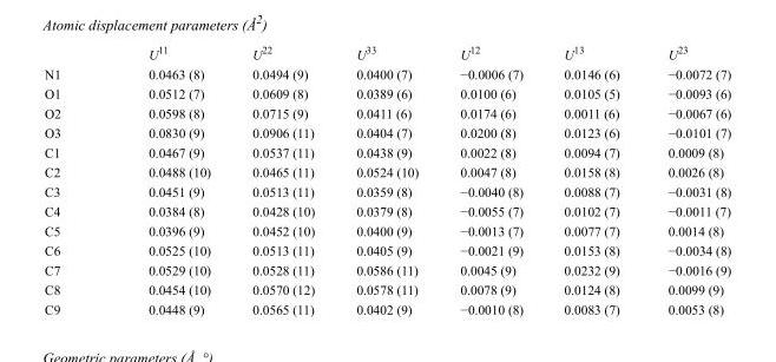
<table><thead><tr><td></td><td>U<sup>11</sup></td><td>U<sup>22</sup></td><td>U<sup>33</sup></td><td>U<sup>12</sup></td><td>U<sup>13</sup></td><td>U<sup>23</sup></td></tr></thead><tbody><tr><td>N1</td><td>0.0463 (8)</td><td>0.0494 (9)</td><td>0.0400 (7)</td><td>−0.0006 (7)</td><td>0.0146 (6)</td><td>−0.0072 (7)</td></tr><tr><td>O1</td><td>0.0512 (7)</td><td>0.0609 (8)</td><td>0.0389 (6)</td><td>0.0100 (6)</td><td>0.0105 (5)</td><td>−0.0093 (6)</td></tr><tr><td>O2</td><td>0.0598 (8)</td><td>0.0715 (9)</td><td>0.0411 (6)</td><td>0.0174 (6)</td><td>0.0011 (6)</td><td>−0.0067 (6)</td></tr><tr><td>O3</td><td>0.0830 (9)</td><td>0.0906 (11)</td><td>0.0404 (7)</td><td>0.0200 (8)</td><td>0.0123 (6)</td><td>−0.0101 (7)</td></tr><tr><td>C1</td><td>0.0467 (9)</td><td>0.0537 (11)</td><td>0.0438 (9)</td><td>0.0022 (8)</td><td>0.0094 (7)</td><td>0.0009 (8)</td></tr><tr><td>C2</td><td>0.0488 (10)</td><td>0.0465 (11)</td><td>0.0524 (10)</td><td>0.0047 (8)</td><td>0.0158 (8)</td><td>0.0026 (8)</td></tr><tr><td>C3</td><td>0.0451 (9)</td><td>0.0513 (11)</td><td>0.0359 (8)</td><td>−0.0040 (8)</td><td>0.0088 (7)</td><td>−0.0031 (8)</td></tr><tr><td>C4</td><td>0.0384 (8)</td><td>0.0428 (10)</td><td>0.0379 (8)</td><td>−0.0055 (7)</td><td>0.0102 (7)</td><td>−0.0011 (7)</td></tr><tr><td>C5</td><td>0.0396 (9)</td><td>0.0452 (10)</td><td>0.0400 (9)</td><td>−0.0013 (7)</td><td>0.0077 (7)</td><td>0.0014 (8)</td></tr><tr><td>C6</td><td>0.0525 (10)</td><td>0.0513 (11)</td><td>0.0405 (9)</td><td>−0.0021 (9)</td><td>0.0153 (8)</td><td>−0.0034 (8)</td></tr><tr><td>C7</td><td>0.0529 (10)</td><td>0.0528 (11)</td><td>0.0586 (11)</td><td>0.0045 (9)</td><td>0.0232 (9)</td><td>−0.0016 (9)</td></tr><tr><td>C8</td><td>0.0454 (10)</td><td>0.0570 (12)</td><td>0.0578 (11)</td><td>0.0078 (9)</td><td>0.0124 (8)</td><td>0.0099 (9)</td></tr><tr><td>C9</td><td>0.0448 (9)</td><td>0.0565 (11)</td><td>0.0402 (9)</td><td>−0.0010 (8)</td><td>0.0083 (7)</td><td>0.0053 (8)</td></tr></tbody></table>